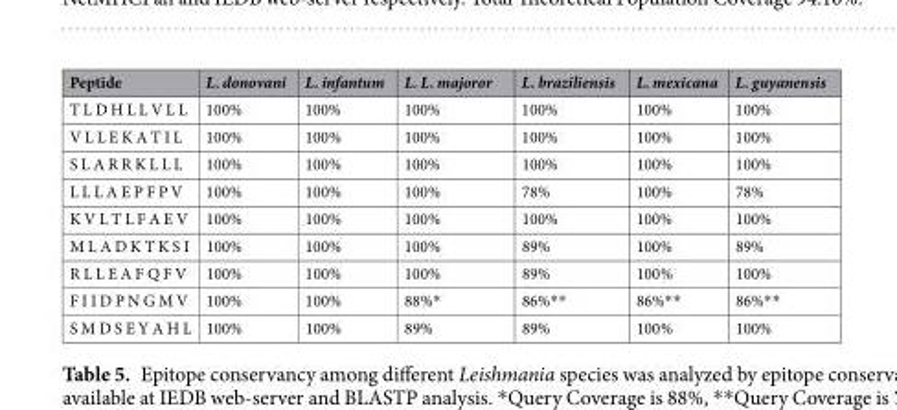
<table><thead><tr><td>Peptide</td><td>L. donovani</td><td>L. infantum</td><td>L. L. majoror</td><td>L. braziliensis</td><td>L. mexicana</td><td>L. guyanensis</td></tr></thead><tbody><tr><td>T L D H L L V L L</td><td>100%</td><td>100%</td><td>100%</td><td>100%</td><td>100%</td><td>100%</td></tr><tr><td>V L L E K A T I L</td><td>100%</td><td>100%</td><td>100%</td><td>100%</td><td>100%</td><td>100%</td></tr><tr><td>S L A R R K L L L</td><td>100%</td><td>100%</td><td>100%</td><td>100%</td><td>100%</td><td>100%</td></tr><tr><td>L L L A E P F P V</td><td>100%</td><td>100%</td><td>100%</td><td>78%</td><td>100%</td><td>78%</td></tr><tr><td>K V L T L F A E V</td><td>100%</td><td>100%</td><td>100%</td><td>100%</td><td>100%</td><td>100%</td></tr><tr><td>M L A D K T K S I</td><td>100%</td><td>100%</td><td>100%</td><td>89%</td><td>100%</td><td>89%</td></tr><tr><td>R L L E A F Q F V</td><td>100%</td><td>100%</td><td>100%</td><td>89%</td><td>100%</td><td>100%</td></tr><tr><td>F I I D P N G M V</td><td>100%</td><td>100%</td><td>88%*</td><td>86%**</td><td>86%**</td><td>86%**</td></tr><tr><td>S M D S E Y A H L</td><td>100%</td><td>100%</td><td>89%</td><td>89%</td><td>100%</td><td>100%</td></tr></tbody></table>